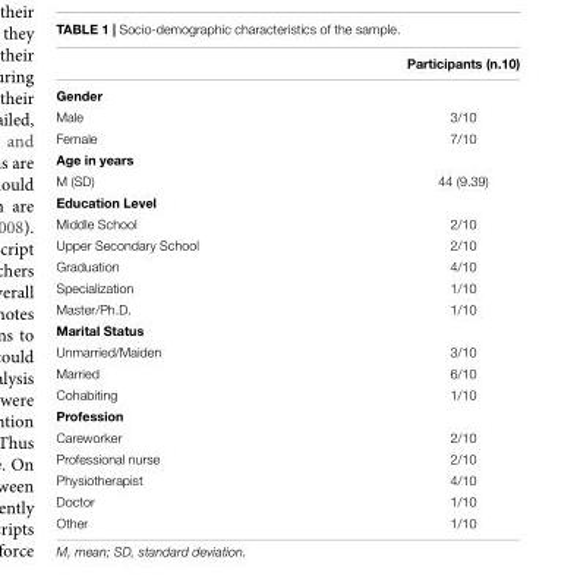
<table><thead><tr><td></td><td>Participants (n.10)</td></tr></thead><tbody><tr><td colspan="2">Gender</td></tr><tr><td>Male</td><td>3/10</td></tr><tr><td>Female</td><td>7/10</td></tr><tr><td colspan="2">Age in years</td></tr><tr><td>M (SD)</td><td>44 (9.39)</td></tr><tr><td colspan="2">Education Level</td></tr><tr><td>Middle School</td><td>2/10</td></tr><tr><td>Upper Secondary School</td><td>2/10</td></tr><tr><td>Graduation</td><td>4/10</td></tr><tr><td>Specialization</td><td>1/10</td></tr><tr><td>Master/Ph.D.</td><td>1/10</td></tr><tr><td colspan="2">Marital Status</td></tr><tr><td>Unmarried/Maiden</td><td>3/10</td></tr><tr><td>Married</td><td>6/10</td></tr><tr><td>Cohabiting</td><td>1/10</td></tr><tr><td colspan="2">Profession</td></tr><tr><td>Careworker</td><td>2/10</td></tr><tr><td>Professional nurse</td><td>2/10</td></tr><tr><td>Physiotherapist</td><td>4/10</td></tr><tr><td>Doctor</td><td>1/10</td></tr><tr><td>Other</td><td>1/10</td></tr></tbody></table>